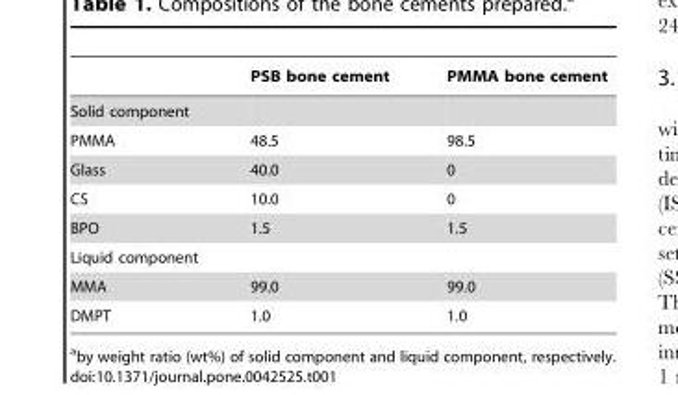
<table><thead><tr><td></td><td>PSB bone cement</td><td>PMMA bone cement</td></tr></thead><tbody><tr><td colspan="3">Solid component</td></tr><tr><td>PMMA</td><td>48.5</td><td>98.5</td></tr><tr><td>Glass</td><td>40.0</td><td>0</td></tr><tr><td>CS</td><td>10.0</td><td>0</td></tr><tr><td>BPO</td><td>1.5</td><td>1.5</td></tr><tr><td colspan="3">Liquid component</td></tr><tr><td>MMA</td><td>99.0</td><td>99.0</td></tr><tr><td>DMPT</td><td>1.0</td><td>1.0</td></tr></tbody></table>